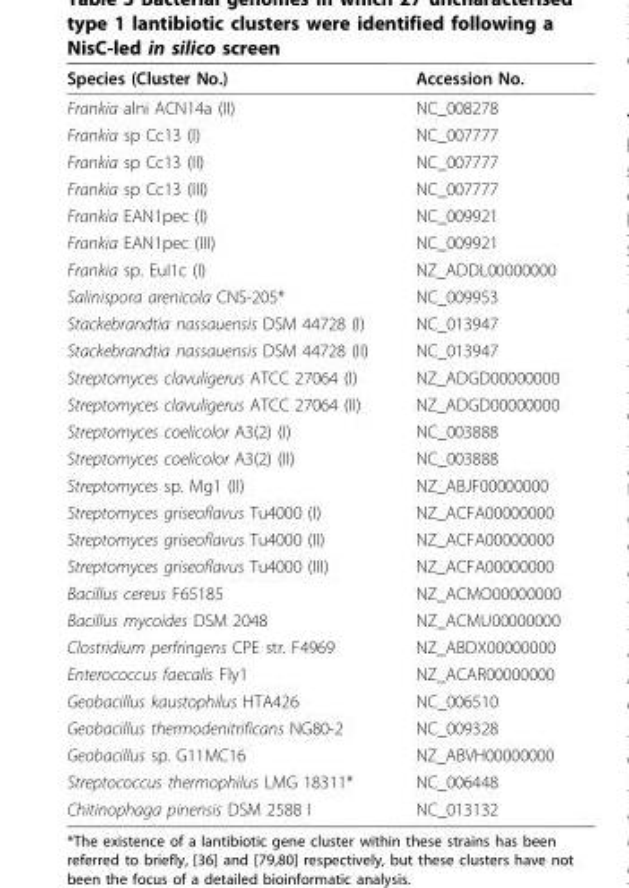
<table><thead><tr><td>Species (Cluster No.)</td><td>Accession No.</td></tr></thead><tbody><tr><td>Frankia alni ACN14a (II)</td><td>NC_008278</td></tr><tr><td>Frankia sp Cc13 (I)</td><td>NC_007777</td></tr><tr><td>Frankia sp Cc13 (II)</td><td>NC_007777</td></tr><tr><td>Frankia sp Cc13 (III)</td><td>NC_007777</td></tr><tr><td>Frankia EAN1pec (I)</td><td>NC_009921</td></tr><tr><td>Frankia EAN1pec (III)</td><td>NC_009921</td></tr><tr><td>Frankia sp. EuI1c (I)</td><td>NZ_ADDL00000000</td></tr><tr><td>Salinispora arenicola CNS-205*</td><td>NC_009953</td></tr><tr><td>Stackebrandtia nassauensis DSM 44728 (I)</td><td>NC_013947</td></tr><tr><td>Stackebrandtia nassauensis DSM 44728 (II)</td><td>NC_013947</td></tr><tr><td>Streptomyces clavuligerus ATCC 27064 (I)</td><td>NZ_ADGD00000000</td></tr><tr><td>Streptomyces clavuligerus ATCC 27064 (II)</td><td>NZ_ADGD00000000</td></tr><tr><td>Streptomyces coelicolor A3(2) (I)</td><td>NC_003888</td></tr><tr><td>Streptomyces coelicolor A3(2) (II)</td><td>NC_003888</td></tr><tr><td>Streptomyces sp. Mg1 (II)</td><td>NZ_ABJF00000000</td></tr><tr><td>Streptomyces griseoflavus Tu4000 (I)</td><td>NZ_ACFA00000000</td></tr><tr><td>Streptomyces griseoflavus Tu4000 (II)</td><td>NZ_ACFA00000000</td></tr><tr><td>Streptomyces griseoflavus Tu4000 (III)</td><td>NZ_ACFA00000000</td></tr><tr><td>Bacillus cereus F65185</td><td>NZ_ACMO00000000</td></tr><tr><td>Bacillus mycoides DSM 2048</td><td>NZ_ACMU00000000</td></tr><tr><td>Clostridium perfringens CPE str. F4969</td><td>NZ_ABDX00000000</td></tr><tr><td>Enterococcus faecalis Fly1</td><td>NZ_ACAR00000000</td></tr><tr><td>Geobacillus kaustophilus HTA426</td><td>NC_006510</td></tr><tr><td>Geobacillus thermodenitrificans NG80-2</td><td>NC_009328</td></tr><tr><td>Geobacillus sp. G11MC16</td><td>NZ_ABVH00000000</td></tr><tr><td>Streptococcus thermophilus LMG 18311*</td><td>NC_006448</td></tr><tr><td>Chitinophaga pinensis DSM 2588 I</td><td>NC_013132</td></tr></tbody></table>